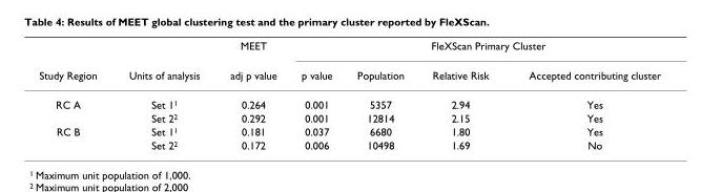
<table><thead><tr><td rowspan="2">Study Region</td><td rowspan="2">Units of analysis</td><td rowspan="2">MEET adj p value</td><td colspan="4">FleXScan Primary Cluster</td></tr><tr><td>p value</td><td>Population</td><td>Relative Risk</td><td>Accepted contributing cluster</td></tr></thead><tbody><tr><td rowspan="2">RC A</td><td>Set 1<sup>1</sup></td><td>0.264</td><td>0.001</td><td>5357</td><td>2.94</td><td>Yes</td></tr><tr><td>Set 2<sup>2</sup></td><td>0.292</td><td>0.001</td><td>12814</td><td>2.15</td><td>Yes</td></tr><tr><td rowspan="2">RC B</td><td>Set 1<sup>1</sup></td><td>0.181</td><td>0.037</td><td>6680</td><td>1.80</td><td>Yes</td></tr><tr><td>Set 2<sup>2</sup></td><td>0.172</td><td>0.006</td><td>10498</td><td>1.69</td><td>No</td></tr></tbody></table>